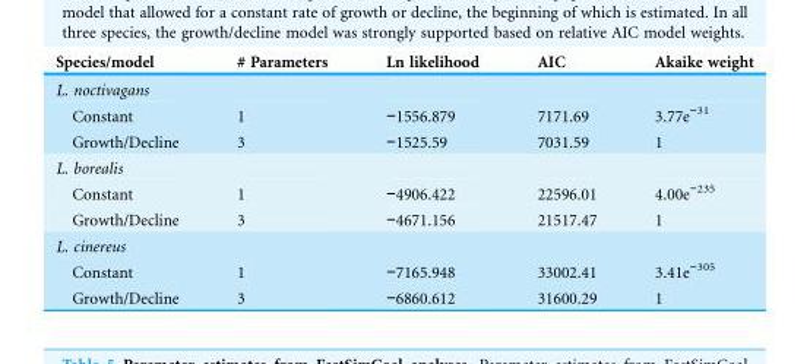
<table><thead><tr><td>Species/model</td><td># Parameters</td><td>Ln likelihood</td><td>AIC</td><td>Akaike weight</td></tr></thead><tbody><tr><td colspan="5">L. noctivagans</td></tr><tr><td>Constant</td><td>1</td><td>−1556.879</td><td>7171.69</td><td>3.77e<sup>−31</sup></td></tr><tr><td>Growth/Decline</td><td>3</td><td>−1525.59</td><td>7031.59</td><td>1</td></tr><tr><td colspan="5">L. borealis</td></tr><tr><td>Constant</td><td>1</td><td>−4906.422</td><td>22596.01</td><td>4.00e<sup>−235</sup></td></tr><tr><td>Growth/Decline</td><td>3</td><td>−4671.156</td><td>21517.47</td><td>1</td></tr><tr><td colspan="5">L. cinereus</td></tr><tr><td>Constant</td><td>1</td><td>−7165.948</td><td>33002.41</td><td>3.41e<sup>−305</sup></td></tr><tr><td>Growth/Decline</td><td>3</td><td>−6860.612</td><td>31600.29</td><td>1</td></tr></tbody></table>